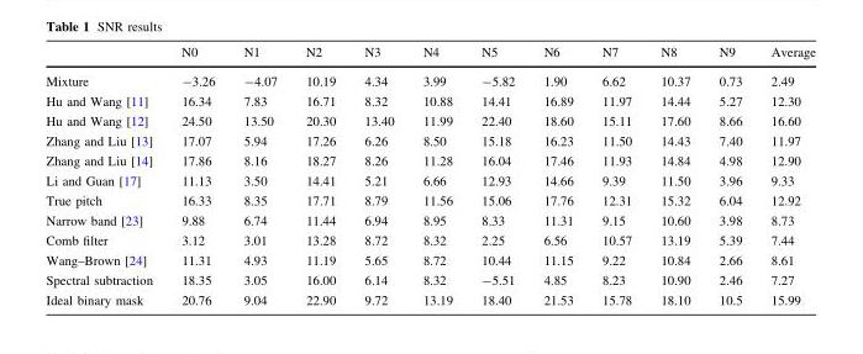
<table><thead><tr><td></td><td>N0</td><td>N1</td><td>N2</td><td>N3</td><td>N4</td><td>N5</td><td>N6</td><td>N7</td><td>N8</td><td>N9</td><td>Average</td></tr></thead><tbody><tr><td>Mixture</td><td>-3.26</td><td>-4.07</td><td>10.19</td><td>4.34</td><td>3.99</td><td>-5.82</td><td>1.90</td><td>6.62</td><td>10.37</td><td>0.73</td><td>2.49</td></tr><tr><td>Hu and Wang [11]</td><td>16.34</td><td>7.83</td><td>16.71</td><td>8.32</td><td>10.88</td><td>14.41</td><td>16.89</td><td>11.97</td><td>14.44</td><td>5.27</td><td>12.30</td></tr><tr><td>Hu and Wang [12]</td><td>24.50</td><td>13.50</td><td>20.30</td><td>13.40</td><td>11.99</td><td>22.40</td><td>18.60</td><td>15.11</td><td>17.60</td><td>8.66</td><td>16.60</td></tr><tr><td>Zhang and Liu [13]</td><td>17.07</td><td>5.94</td><td>17.26</td><td>6.26</td><td>8.50</td><td>15.18</td><td>16.23</td><td>11.50</td><td>14.43</td><td>7.40</td><td>11.97</td></tr><tr><td>Zhang and Liu [14]</td><td>17.86</td><td>8.16</td><td>18.27</td><td>8.26</td><td>11.28</td><td>16.04</td><td>17.46</td><td>11.93</td><td>14.84</td><td>4.98</td><td>12.90</td></tr><tr><td>Li and Guan [17]</td><td>11.13</td><td>3.50</td><td>14.41</td><td>5.21</td><td>6.66</td><td>12.93</td><td>14.66</td><td>9.39</td><td>11.50</td><td>3.96</td><td>9.33</td></tr><tr><td>True pitch</td><td>16.33</td><td>8.35</td><td>17.71</td><td>8.79</td><td>11.56</td><td>15.06</td><td>17.76</td><td>12.31</td><td>15.32</td><td>6.04</td><td>12.92</td></tr><tr><td>Narrow band [23]</td><td>9.88</td><td>6.74</td><td>11.44</td><td>6.94</td><td>8.95</td><td>8.33</td><td>11.31</td><td>9.15</td><td>10.60</td><td>3.98</td><td>8.73</td></tr><tr><td>Comb filter</td><td>3.12</td><td>3.01</td><td>13.28</td><td>8.72</td><td>8.32</td><td>2.25</td><td>6.56</td><td>10.57</td><td>13.19</td><td>5.39</td><td>7.44</td></tr><tr><td>Wang–Brown [24]</td><td>11.31</td><td>4.93</td><td>11.19</td><td>5.65</td><td>8.72</td><td>10.44</td><td>11.15</td><td>9.22</td><td>10.84</td><td>2.66</td><td>8.61</td></tr><tr><td>Spectral subtraction</td><td>18.35</td><td>3.05</td><td>16.00</td><td>6.14</td><td>8.32</td><td>-5.51</td><td>4.85</td><td>8.23</td><td>10.90</td><td>2.46</td><td>7.27</td></tr><tr><td>Ideal binary mask</td><td>20.76</td><td>9.04</td><td>22.90</td><td>9.72</td><td>13.19</td><td>18.40</td><td>21.53</td><td>15.78</td><td>18.10</td><td>10.5</td><td>15.99</td></tr></tbody></table>